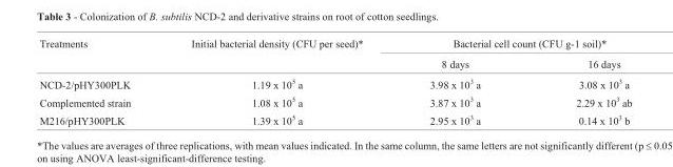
<table><thead><tr><td rowspan="2">Treatments</td><td rowspan="2">Initial bacterial density (CFU per seed)*</td><td colspan="2">Bacterial cell count (CFU g-1 soil)*</td></tr><tr><td>8 days</td><td>16 days</td></tr></thead><tbody><tr><td>NCD-2/pHY300PLK</td><td>1.19 x 10<sup>5</sup> a</td><td>3.98 x 10<sup>3</sup> a</td><td>3.08 x 10<sup>3</sup> a</td></tr><tr><td>Complemented strain</td><td>1.08 x 10<sup>5</sup> a</td><td>3.87 x 10<sup>3</sup> a</td><td>2.29 x 10<sup>3</sup> ab</td></tr><tr><td>M216/pHY300PLK</td><td>1.39 x 10<sup>5</sup> a</td><td>2.95 x 10<sup>3</sup> a</td><td>0.14 x 10<sup>3</sup> b</td></tr></tbody></table>